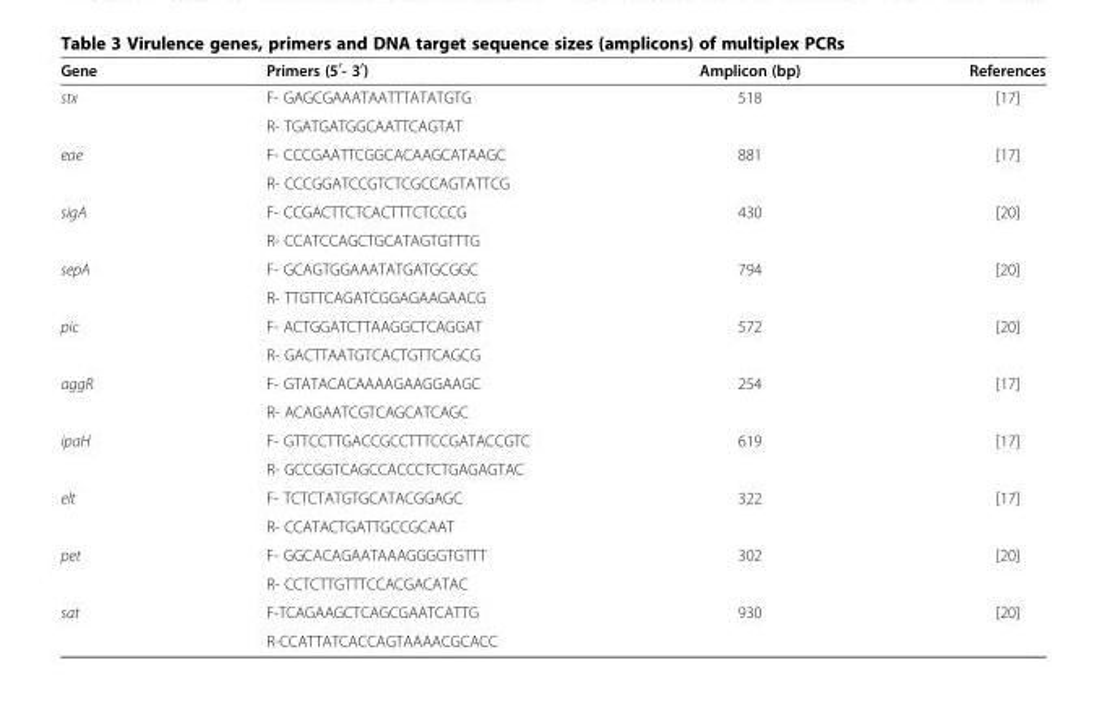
<table><thead><tr><td>Gene</td><td>Primers (50- 30)</td><td>Amplicon (bp)</td><td>References</td></tr></thead><tbody><tr><td rowspan="2">stx</td><td>F- GAGCGAAATAATTTATATGTG</td><td rowspan="2">518</td><td rowspan="2">[17]</td></tr><tr><td>R- TGATGATGGCAATTCAGTAT</td></tr><tr><td rowspan="2">eae</td><td>F- CCCGAATTCGGCACAAGCATAAGC</td><td rowspan="2">881</td><td rowspan="2">[17]</td></tr><tr><td>R- CCCGGATCCGTCTCGCCAGTATTCG</td></tr><tr><td rowspan="2">sigA</td><td>F- CCGACTTCTCACTTTCTCCCG</td><td rowspan="2">430</td><td rowspan="2">[20]</td></tr><tr><td>R- CCATCCAGCTGCATAGTGTTTG</td></tr><tr><td rowspan="2">sepA</td><td>F- GCAGTGGAAATATGATGCGGC</td><td rowspan="2">794</td><td rowspan="2">[20]</td></tr><tr><td>R- TTGTTCAGATCGGAGAAGAACG</td></tr><tr><td rowspan="2">pic</td><td>F- ACTGGATCTTAAGGCTCAGGAT</td><td rowspan="2">572</td><td rowspan="2">[20]</td></tr><tr><td>R- GACTTAATGTCACTGTTCAGCG</td></tr><tr><td rowspan="2">aggR</td><td>F- GTATACACAAAAGAAGGAAGC</td><td rowspan="2">254</td><td rowspan="2">[17]</td></tr><tr><td>R- ACAGAATCGTCAGCATCAGC</td></tr><tr><td rowspan="2">ipaH</td><td>F- GTTCCTTGACCGCCTTTCCGATACCGTC</td><td rowspan="2">619</td><td rowspan="2">[17]</td></tr><tr><td>R- GCCGGTCAGCCACCCTCTGAGAGTAC</td></tr><tr><td rowspan="2">elt</td><td>F- TCTCTATGTGCATACGGAGC</td><td rowspan="2">322</td><td rowspan="2">[17]</td></tr><tr><td>R- CCATACTGATTGCCGCAAT</td></tr><tr><td rowspan="2">pet</td><td>F- GGCACAGAATAAAGGGGTGTTT</td><td rowspan="2">302</td><td rowspan="2">[20]</td></tr><tr><td>R- CCTCTTGTTTCCACGACATAC</td></tr><tr><td rowspan="2">sat</td><td>F-TCAGAAGCTCAGCGAATCATTG</td><td rowspan="2">930</td><td rowspan="2">[20]</td></tr><tr><td>R-CCATTATCACCAGTAAAACGCACC</td></tr></tbody></table>